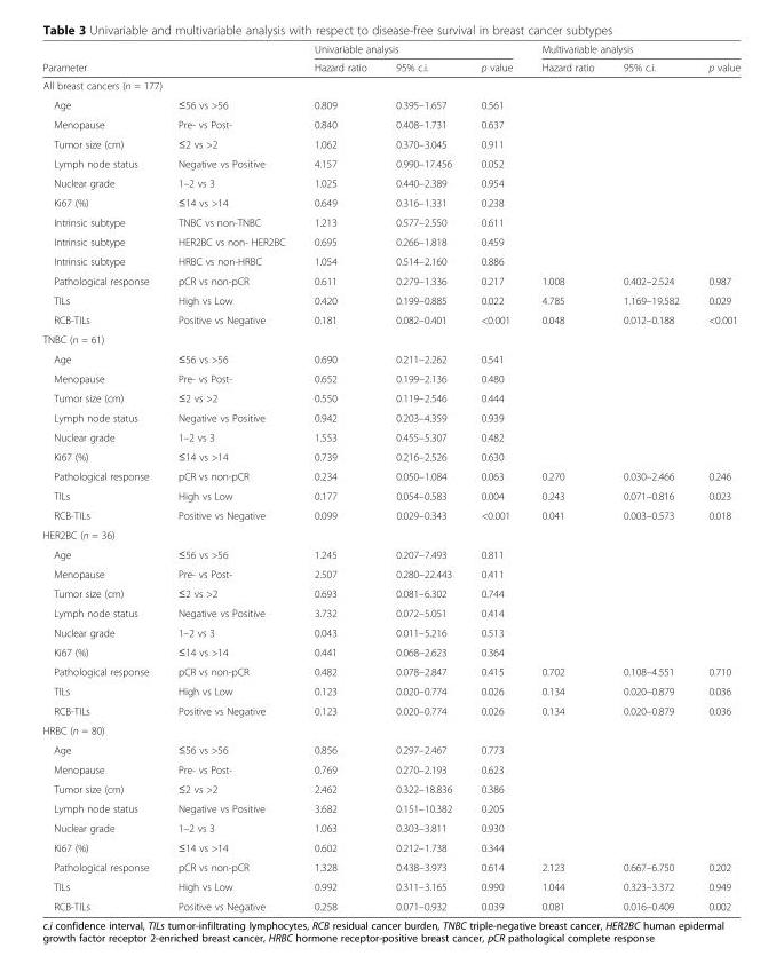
<table><thead><tr><td rowspan="2">Parameter</td><td rowspan="2"></td><td colspan="3">Univariable analysis</td><td colspan="3">Multivariable analysis</td></tr><tr><td>Hazard ratio</td><td>95% c.i.</td><td>p value</td><td>Hazard ratio</td><td>95% c.i.</td><td>p value</td></tr></thead><tbody><tr><td colspan="8">All breast cancers (n = 177)</td></tr><tr><td>Age</td><td>≤56 vs &gt;56</td><td>0.809</td><td>0.395–1.657</td><td>0.561</td><td></td><td></td><td></td></tr><tr><td>Menopause</td><td>Pre- vs Post-</td><td>0.840</td><td>0.408–1.731</td><td>0.637</td><td></td><td></td><td></td></tr><tr><td>Tumor size (cm)</td><td>≤2 vs &gt;2</td><td>1.062</td><td>0.370–3.045</td><td>0.911</td><td></td><td></td><td></td></tr><tr><td>Lymph node status</td><td>Negative vs Positive</td><td>4.157</td><td>0.990–17.456</td><td>0.052</td><td></td><td></td><td></td></tr><tr><td>Nuclear grade</td><td>1–2 vs 3</td><td>1.025</td><td>0.440–2.389</td><td>0.954</td><td></td><td></td><td></td></tr><tr><td>Ki67 (%)</td><td>≤14 vs &gt;14</td><td>0.649</td><td>0.316–1.331</td><td>0.238</td><td></td><td></td><td></td></tr><tr><td>Intrinsic subtype</td><td>TNBC vs non-TNBC</td><td>1.213</td><td>0.577–2.550</td><td>0.611</td><td></td><td></td><td></td></tr><tr><td>Intrinsic subtype</td><td>HER2BC vs non- HER2BC</td><td>0.695</td><td>0.266–1.818</td><td>0.459</td><td></td><td></td><td></td></tr><tr><td>Intrinsic subtype</td><td>HRBC vs non-HRBC</td><td>1.054</td><td>0.514–2.160</td><td>0.886</td><td></td><td></td><td></td></tr><tr><td>Pathological response</td><td>pCR vs non-pCR</td><td>0.611</td><td>0.279–1.336</td><td>0.217</td><td>1.008</td><td>0.402–2.524</td><td>0.987</td></tr><tr><td>TILs</td><td>High vs Low</td><td>0.420</td><td>0.199–0.885</td><td>0.022</td><td>4.785</td><td>1.169–19.582</td><td>0.029</td></tr><tr><td>RCB-TILs</td><td>Positive vs Negative</td><td>0.181</td><td>0.082–0.401</td><td>&lt;0.001</td><td>0.048</td><td>0.012–0.188</td><td>&lt;0.001</td></tr><tr><td colspan="8">TNBC (n = 61)</td></tr><tr><td>Age</td><td>≤56 vs &gt;56</td><td>0.690</td><td>0.211–2.262</td><td>0.541</td><td></td><td></td><td></td></tr><tr><td>Menopause</td><td>Pre- vs Post-</td><td>0.652</td><td>0.199–2.136</td><td>0.480</td><td></td><td></td><td></td></tr><tr><td>Tumor size (cm)</td><td>≤2 vs &gt;2</td><td>0.550</td><td>0.119–2.546</td><td>0.444</td><td></td><td></td><td></td></tr><tr><td>Lymph node status</td><td>Negative vs Positive</td><td>0.942</td><td>0.203–4.359</td><td>0.939</td><td></td><td></td><td></td></tr><tr><td>Nuclear grade</td><td>1–2 vs 3</td><td>1.553</td><td>0.455–5.307</td><td>0.482</td><td></td><td></td><td></td></tr><tr><td>Ki67 (%)</td><td>≤14 vs &gt;14</td><td>0.739</td><td>0.216–2.526</td><td>0.630</td><td></td><td></td><td></td></tr><tr><td>Pathological response</td><td>pCR vs non-pCR</td><td>0.234</td><td>0.050–1.084</td><td>0.063</td><td>0.270</td><td>0.030–2.466</td><td>0.246</td></tr><tr><td>TILs</td><td>High vs Low</td><td>0.177</td><td>0.054–0.583</td><td>0.004</td><td>0.243</td><td>0.071–0.816</td><td>0.023</td></tr><tr><td>RCB-TILs</td><td>Positive vs Negative</td><td>0.099</td><td>0.029–0.343</td><td>&lt;0.001</td><td>0.041</td><td>0.003–0.573</td><td>0.018</td></tr><tr><td colspan="8">HER2BC (n = 36)</td></tr><tr><td>Age</td><td>≤56 vs &gt;56</td><td>1.245</td><td>0.207–7.493</td><td>0.811</td><td></td><td></td><td></td></tr><tr><td>Menopause</td><td>Pre- vs Post-</td><td>2.507</td><td>0.280–22.443</td><td>0.411</td><td></td><td></td><td></td></tr><tr><td>Tumor size (cm)</td><td>≤2 vs &gt;2</td><td>0.693</td><td>0.081–6.302</td><td>0.744</td><td></td><td></td><td></td></tr><tr><td>Lymph node status</td><td>Negative vs Positive</td><td>3.732</td><td>0.072–5.051</td><td>0.414</td><td></td><td></td><td></td></tr><tr><td>Nuclear grade</td><td>1–2 vs 3</td><td>0.043</td><td>0.011–5.216</td><td>0.513</td><td></td><td></td><td></td></tr><tr><td>Ki67 (%)</td><td>≤14 vs &gt;14</td><td>0.441</td><td>0.068–2.623</td><td>0.364</td><td></td><td></td><td></td></tr><tr><td>Pathological response</td><td>pCR vs non-pCR</td><td>0.482</td><td>0.078–2.847</td><td>0.415</td><td>0.702</td><td>0.108–4.551</td><td>0.710</td></tr><tr><td>TILs</td><td>High vs Low</td><td>0.123</td><td>0.020–0.774</td><td>0.026</td><td>0.134</td><td>0.020–0.879</td><td>0.036</td></tr><tr><td>RCB-TILs</td><td>Positive vs Negative</td><td>0.123</td><td>0.020–0.774</td><td>0.026</td><td>0.134</td><td>0.020–0.879</td><td>0.036</td></tr><tr><td colspan="8">HRBC (n = 80)</td></tr><tr><td>Age</td><td>≤56 vs &gt;56</td><td>0.856</td><td>0.297–2.467</td><td>0.773</td><td></td><td></td><td></td></tr><tr><td>Menopause</td><td>Pre- vs Post-</td><td>0.769</td><td>0.270–2.193</td><td>0.623</td><td></td><td></td><td></td></tr><tr><td>Tumor size (cm)</td><td>≤2 vs &gt;2</td><td>2.462</td><td>0.322–18.836</td><td>0.386</td><td></td><td></td><td></td></tr><tr><td>Lymph node status</td><td>Negative vs Positive</td><td>3.682</td><td>0.151–10.382</td><td>0.205</td><td></td><td></td><td></td></tr><tr><td>Nuclear grade</td><td>1–2 vs 3</td><td>1.063</td><td>0.303–3.811</td><td>0.930</td><td></td><td></td><td></td></tr><tr><td>Ki67 (%)</td><td>≤14 vs &gt;14</td><td>0.602</td><td>0.212–1.738</td><td>0.344</td><td></td><td></td><td></td></tr><tr><td>Pathological response</td><td>pCR vs non-pCR</td><td>1.328</td><td>0.438–3.973</td><td>0.614</td><td>2.123</td><td>0.667–6.750</td><td>0.202</td></tr><tr><td>TILs</td><td>High vs Low</td><td>0.992</td><td>0.311–3.165</td><td>0.990</td><td>1.044</td><td>0.323–3.372</td><td>0.949</td></tr><tr><td>RCB-TILs</td><td>Positive vs Negative</td><td>0.258</td><td>0.071–0.932</td><td>0.039</td><td>0.081</td><td>0.016–0.409</td><td>0.002</td></tr></tbody></table>